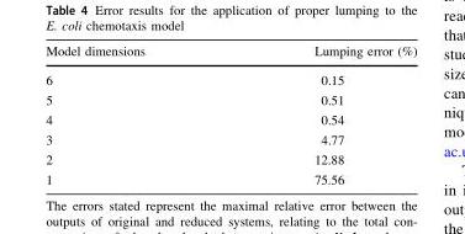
<table><thead><tr><td>Model dimensions</td><td>Lumping error (%)</td></tr></thead><tbody><tr><td>6</td><td>0.15</td></tr><tr><td>5</td><td>0.51</td></tr><tr><td>4</td><td>0.54</td></tr><tr><td>3</td><td>4.77</td></tr><tr><td>2</td><td>12.88</td></tr><tr><td>1</td><td>75.56</td></tr></tbody></table>